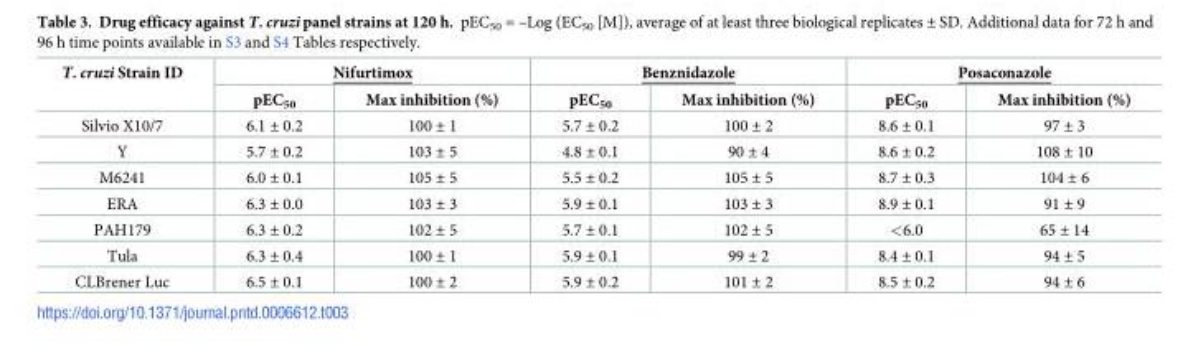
<table><thead><tr><td rowspan="2">T. cruzi Strain ID</td><td colspan="2">Nifurtimox</td><td colspan="2">Benznidazole</td><td colspan="2">Posaconazole</td></tr><tr><td>pEC<sub>50</sub></td><td>Max inhibition (%)</td><td>pEC<sub>50</sub></td><td>Max inhibition (%)</td><td>pEC<sub>50</sub></td><td>Max inhibition (%)</td></tr></thead><tbody><tr><td>Silvio X10/7</td><td>6.1 ± 0.2</td><td>100 ± 1</td><td>5.7 ± 0.2</td><td>100 ± 2</td><td>8.6 ± 0.1</td><td>97 ± 3</td></tr><tr><td>Y</td><td>5.7 ± 0.2</td><td>103 ± 5</td><td>4.8 ± 0.1</td><td>90 ± 4</td><td>8.6 ± 0.2</td><td>108 ± 10</td></tr><tr><td>M6241</td><td>6.0 ± 0.1</td><td>105 ± 5</td><td>5.5 ± 0.2</td><td>105 ± 5</td><td>8.7 ± 0.3</td><td>104 ± 6</td></tr><tr><td>ERA</td><td>6.3 ± 0.0</td><td>103 ± 3</td><td>5.9 ± 0.1</td><td>103 ± 3</td><td>8.9 ± 0.1</td><td>91 ± 9</td></tr><tr><td>PAH179</td><td>6.3 ± 0.2</td><td>102 ± 5</td><td>5.7 ± 0.1</td><td>102 ± 5</td><td>&lt;6.0</td><td>65 ± 14</td></tr><tr><td>Tula</td><td>6.3 ± 0.4</td><td>100 ± 1</td><td>5.9 ± 0.1</td><td>99 ± 2</td><td>8.4 ± 0.1</td><td>94 ± 5</td></tr><tr><td>CLBrener Luc</td><td>6.5 ± 0.1</td><td>100 ± 2</td><td>5.9 ± 0.2</td><td>101 ± 2</td><td>8.5 ± 0.2</td><td>94 ± 6</td></tr></tbody></table>